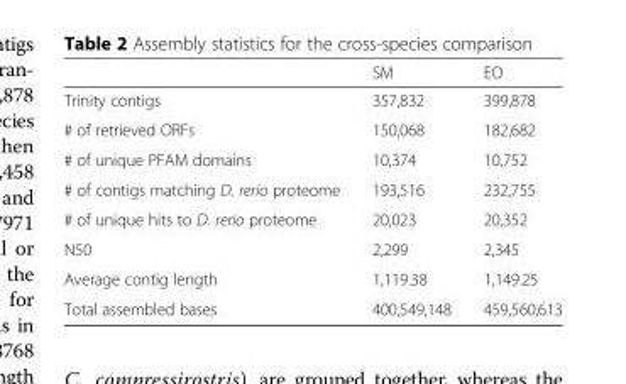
<table><thead><tr><td></td><td>SM</td><td>EO</td></tr></thead><tbody><tr><td>Trinity contigs</td><td>357,832</td><td>399,878</td></tr><tr><td># of retrieved ORFs</td><td>150,068</td><td>182,682</td></tr><tr><td># of unique PFAM domains</td><td>10,374</td><td>10,752</td></tr><tr><td># of contigs matching D. rerio proteome</td><td>193,516</td><td>232,755</td></tr><tr><td># of unique hits to D. rerio proteome</td><td>20,023</td><td>20,352</td></tr><tr><td>N50</td><td>2,299</td><td>2,345</td></tr><tr><td>Average contig length</td><td>1,119.38</td><td>1,149.25</td></tr><tr><td>Total assembled bases</td><td>400,549,148</td><td>459,560,613</td></tr></tbody></table>